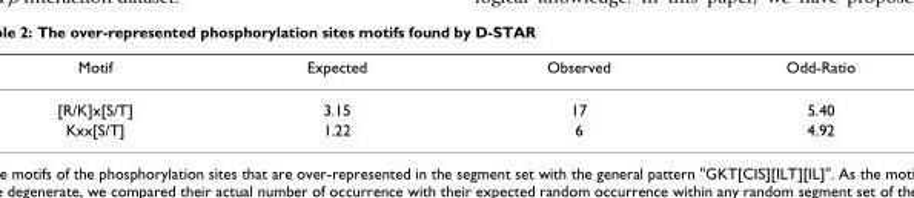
<table><thead><tr><td>Motif</td><td>Expected</td><td>Observed</td><td>Odd-Ratio</td></tr></thead><tbody><tr><td>[R/K]x[S/T]</td><td>3.15</td><td>17</td><td>5.40</td></tr><tr><td>Kxx[S/T]</td><td>1.22</td><td>6</td><td>4.92</td></tr></tbody></table>